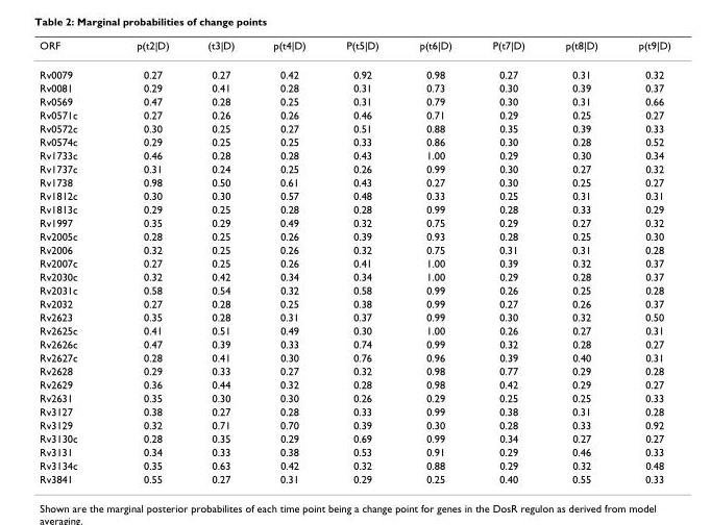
<table><thead><tr><td>ORF</td><td>p(t2|D)</td><td>(t3|D)</td><td>p(t4|D)</td><td>P(t5|D)</td><td>p(t6|D)</td><td>P(t7|D)</td><td>p(t8|D)</td><td>p(t9|D)</td></tr></thead><tbody><tr><td>Rv0079</td><td>0.27</td><td>0.27</td><td>0.42</td><td>0.92</td><td>0.98</td><td>0.27</td><td>0.31</td><td>0.32</td></tr><tr><td>Rv0081</td><td>0.29</td><td>0.41</td><td>0.28</td><td>0.31</td><td>0.73</td><td>0.30</td><td>0.39</td><td>0.37</td></tr><tr><td>Rv0569</td><td>0.47</td><td>0.28</td><td>0.25</td><td>0.31</td><td>0.79</td><td>0.30</td><td>0.31</td><td>0.66</td></tr><tr><td>Rv0571c</td><td>0.27</td><td>0.26</td><td>0.26</td><td>0.46</td><td>0.71</td><td>0.29</td><td>0.25</td><td>0.27</td></tr><tr><td>Rv0572c</td><td>0.30</td><td>0.25</td><td>0.27</td><td>0.51</td><td>0.88</td><td>0.35</td><td>0.39</td><td>0.33</td></tr><tr><td>Rv0574c</td><td>0.29</td><td>0.25</td><td>0.25</td><td>0.33</td><td>0.86</td><td>0.30</td><td>0.28</td><td>0.52</td></tr><tr><td>Rv1733c</td><td>0.46</td><td>0.28</td><td>0.28</td><td>0.43</td><td>1.00</td><td>0.29</td><td>0.30</td><td>0.34</td></tr><tr><td>Rv1737c</td><td>0.31</td><td>0.24</td><td>0.25</td><td>0.26</td><td>0.99</td><td>0.30</td><td>0.27</td><td>0.32</td></tr><tr><td>Rv1738</td><td>0.98</td><td>0.50</td><td>0.61</td><td>0.43</td><td>0.27</td><td>0.30</td><td>0.25</td><td>0.27</td></tr><tr><td>Rv1812c</td><td>0.30</td><td>0.30</td><td>0.57</td><td>0.48</td><td>0.33</td><td>0.25</td><td>0.31</td><td>0.31</td></tr><tr><td>Rv1813c</td><td>0.29</td><td>0.25</td><td>0.28</td><td>0.28</td><td>0.99</td><td>0.28</td><td>0.33</td><td>0.29</td></tr><tr><td>Rv1997</td><td>0.35</td><td>0.29</td><td>0.49</td><td>0.32</td><td>0.75</td><td>0.29</td><td>0.27</td><td>0.32</td></tr><tr><td>Rv2005c</td><td>0.28</td><td>0.25</td><td>0.26</td><td>0.39</td><td>0.93</td><td>0.28</td><td>0.25</td><td>0.30</td></tr><tr><td>Rv2006</td><td>0.32</td><td>0.25</td><td>0.26</td><td>0.32</td><td>0.75</td><td>0.31</td><td>0.31</td><td>0.28</td></tr><tr><td>Rv2007c</td><td>0.27</td><td>0.25</td><td>0.26</td><td>0.41</td><td>1.00</td><td>0.39</td><td>0.32</td><td>0.37</td></tr><tr><td>Rv2030c</td><td>0.32</td><td>0.42</td><td>0.34</td><td>0.34</td><td>1.00</td><td>0.29</td><td>0.28</td><td>0.37</td></tr><tr><td>Rv2031c</td><td>0.58</td><td>0.54</td><td>0.32</td><td>0.58</td><td>0.99</td><td>0.26</td><td>0.25</td><td>0.28</td></tr><tr><td>Rv2032</td><td>0.27</td><td>0.28</td><td>0.25</td><td>0.38</td><td>0.99</td><td>0.27</td><td>0.26</td><td>0.37</td></tr><tr><td>Rv2623</td><td>0.35</td><td>0.28</td><td>0.31</td><td>0.37</td><td>0.99</td><td>0.30</td><td>0.32</td><td>0.50</td></tr><tr><td>Rv2625c</td><td>0.41</td><td>0.51</td><td>0.49</td><td>0.30</td><td>1.00</td><td>0.26</td><td>0.27</td><td>0.31</td></tr><tr><td>Rv2626c</td><td>0.47</td><td>0.39</td><td>0.33</td><td>0.74</td><td>0.99</td><td>0.32</td><td>0.28</td><td>0.27</td></tr><tr><td>Rv2627c</td><td>0.28</td><td>0.41</td><td>0.30</td><td>0.76</td><td>0.96</td><td>0.39</td><td>0.40</td><td>0.31</td></tr><tr><td>Rv2628</td><td>0.29</td><td>0.33</td><td>0.27</td><td>0.32</td><td>0.98</td><td>0.77</td><td>0.29</td><td>0.28</td></tr><tr><td>Rv2629</td><td>0.36</td><td>0.44</td><td>0.32</td><td>0.28</td><td>0.98</td><td>0.42</td><td>0.29</td><td>0.27</td></tr><tr><td>Rv2631</td><td>0.35</td><td>0.30</td><td>0.30</td><td>0.26</td><td>0.29</td><td>0.25</td><td>0.25</td><td>0.33</td></tr><tr><td>Rv3127</td><td>0.38</td><td>0.27</td><td>0.28</td><td>0.33</td><td>0.99</td><td>0.38</td><td>0.31</td><td>0.28</td></tr><tr><td>Rv3129</td><td>0.32</td><td>0.71</td><td>0.70</td><td>0.39</td><td>0.30</td><td>0.28</td><td>0.33</td><td>0.92</td></tr><tr><td>Rv3130c</td><td>0.28</td><td>0.35</td><td>0.29</td><td>0.69</td><td>0.99</td><td>0.34</td><td>0.27</td><td>0.27</td></tr><tr><td>Rv3131</td><td>0.34</td><td>0.33</td><td>0.38</td><td>0.53</td><td>0.91</td><td>0.29</td><td>0.46</td><td>0.33</td></tr><tr><td>Rv3134c</td><td>0.35</td><td>0.63</td><td>0.42</td><td>0.32</td><td>0.88</td><td>0.29</td><td>0.32</td><td>0.48</td></tr><tr><td>Rv3841</td><td>0.55</td><td>0.27</td><td>0.31</td><td>0.29</td><td>0.25</td><td>0.40</td><td>0.55</td><td>0.33</td></tr></tbody></table>